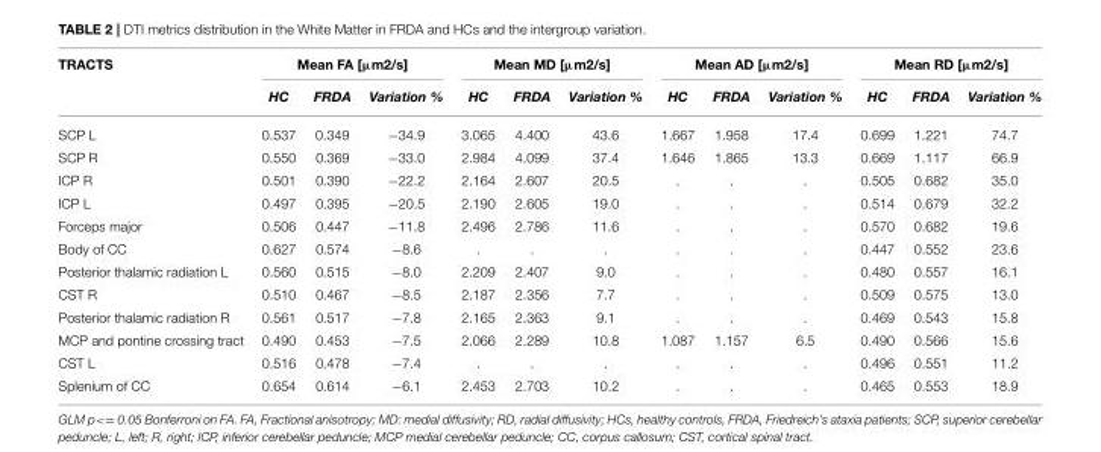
<table><thead><tr><td rowspan="2">TRACTS</td><td colspan="3">Mean FA [µm2/s]</td><td colspan="3">Mean MD [µm2/s]</td><td colspan="3">Mean AD [µm2/s]</td><td colspan="3">Mean RD [µm2/s]</td></tr><tr><td>HC</td><td>FRDA</td><td>Variation %</td><td>HC</td><td>FRDA</td><td>Variation %</td><td>HC</td><td>FRDA</td><td>Variation %</td><td>HC</td><td>FRDA</td><td>Variation %</td></tr></thead><tbody><tr><td>SCP L</td><td>0.537</td><td>0.349</td><td>−34.9</td><td>3.065</td><td>4.400</td><td>43.6</td><td>1.667</td><td>1.958</td><td>17.4</td><td>0.699</td><td>1.221</td><td>74.7</td></tr><tr><td>SCP R</td><td>0.550</td><td>0.369</td><td>−33.0</td><td>2.984</td><td>4.099</td><td>37.4</td><td>1.646</td><td>1.865</td><td>13.3</td><td>0.669</td><td>1.117</td><td>66.9</td></tr><tr><td>ICP R</td><td>0.501</td><td>0.390</td><td>−22.2</td><td>2.164</td><td>2.607</td><td>20.5</td><td>.</td><td>.</td><td>.</td><td>0.505</td><td>0.682</td><td>35.0</td></tr><tr><td>ICP L</td><td>0.497</td><td>0.395</td><td>−20.5</td><td>2.190</td><td>2.605</td><td>19.0</td><td>.</td><td>.</td><td>.</td><td>0.514</td><td>0.679</td><td>32.2</td></tr><tr><td>Forceps major</td><td>0.506</td><td>0.447</td><td>−11.8</td><td>2.496</td><td>2.786</td><td>11.6</td><td>.</td><td>.</td><td>.</td><td>0.570</td><td>0.682</td><td>19.6</td></tr><tr><td>Body of CC</td><td>0.627</td><td>0.574</td><td>−8.6</td><td>.</td><td>.</td><td>.</td><td>.</td><td>.</td><td>.</td><td>0.447</td><td>0.552</td><td>23.6</td></tr><tr><td>Posterior thalamic radiation L</td><td>0.560</td><td>0.515</td><td>−8.0</td><td>2.209</td><td>2.407</td><td>9.0</td><td>.</td><td>.</td><td>.</td><td>0.480</td><td>0.557</td><td>16.1</td></tr><tr><td>CST R</td><td>0.510</td><td>0.467</td><td>−8.5</td><td>2.187</td><td>2.356</td><td>7.7</td><td>.</td><td>.</td><td>.</td><td>0.509</td><td>0.575</td><td>13.0</td></tr><tr><td>Posterior thalamic radiation R</td><td>0.561</td><td>0.517</td><td>−7.8</td><td>2.165</td><td>2.363</td><td>9.1</td><td>.</td><td>.</td><td>.</td><td>0.469</td><td>0.543</td><td>15.8</td></tr><tr><td>MCP and pontine crossing tract</td><td>0.490</td><td>0.453</td><td>−7.5</td><td>2.066</td><td>2.289</td><td>10.8</td><td>1.087</td><td>1.157</td><td>6.5</td><td>0.490</td><td>0.566</td><td>15.6</td></tr><tr><td>CST L</td><td>0.516</td><td>0.478</td><td>−7.4</td><td>.</td><td>.</td><td>.</td><td>.</td><td>.</td><td>.</td><td>0.496</td><td>0.551</td><td>11.2</td></tr><tr><td>Splenium of CC</td><td>0.654</td><td>0.614</td><td>−6.1</td><td>2.453</td><td>2.703</td><td>10.2</td><td>.</td><td>.</td><td>.</td><td>0.465</td><td>0.553</td><td>18.9</td></tr></tbody></table>